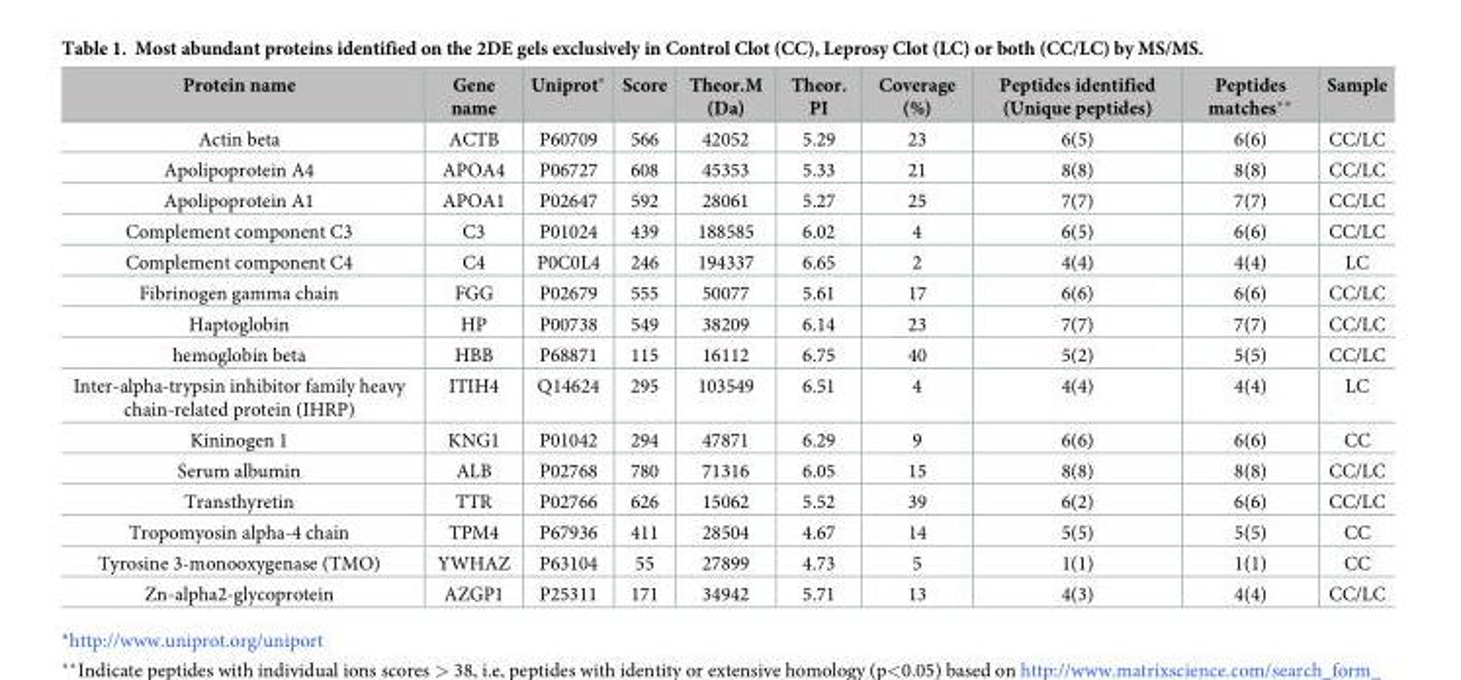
<table><thead><tr><td>Protein name</td><td>Gene name</td><td>Uniprot*</td><td>Score</td><td>Theor.M (Da)</td><td>Theor. PI</td><td>Coverage (%)</td><td>Peptides identified (Unique peptides)</td><td>Peptides matches**</td><td>Sample</td></tr></thead><tbody><tr><td>Actin beta</td><td>ACTB</td><td>P60709</td><td>566</td><td>42052</td><td>5.29</td><td>23</td><td>6(5)</td><td>6(6)</td><td>CC/LC</td></tr><tr><td>Apolipoprotein A4</td><td>APOA4</td><td>P06727</td><td>608</td><td>45353</td><td>5.33</td><td>21</td><td>8(8)</td><td>8(8)</td><td>CC/LC</td></tr><tr><td>Apolipoprotein A1</td><td>APOA1</td><td>P02647</td><td>592</td><td>28061</td><td>5.27</td><td>25</td><td>7(7)</td><td>7(7)</td><td>CC/LC</td></tr><tr><td>Complement component C3</td><td>C3</td><td>P01024</td><td>439</td><td>188585</td><td>6.02</td><td>4</td><td>6(5)</td><td>6(6)</td><td>CC/LC</td></tr><tr><td>Complement component C4</td><td>C4</td><td>P0C0L4</td><td>246</td><td>194337</td><td>6.65</td><td>2</td><td>4(4)</td><td>4(4)</td><td>LC</td></tr><tr><td>Fibrinogen gamma chain</td><td>FGG</td><td>P02679</td><td>555</td><td>50077</td><td>5.61</td><td>17</td><td>6(6)</td><td>6(6)</td><td>CC/LC</td></tr><tr><td>Haptoglobin</td><td>HP</td><td>P00738</td><td>549</td><td>38209</td><td>6.14</td><td>23</td><td>7(7)</td><td>7(7)</td><td>CC/LC</td></tr><tr><td>hemoglobin beta</td><td>HBB</td><td>P68871</td><td>115</td><td>16112</td><td>6.75</td><td>40</td><td>5(2)</td><td>5(5)</td><td>CC/LC</td></tr><tr><td>Inter-alpha-trypsin inhibitor family heavy chain-related protein (IHRP)</td><td>ITIH4</td><td>Q14624</td><td>295</td><td>103549</td><td>6.51</td><td>4</td><td>4(4)</td><td>4(4)</td><td>LC</td></tr><tr><td>Kininogen 1</td><td>KNG1</td><td>P01042</td><td>294</td><td>47871</td><td>6.29</td><td>9</td><td>6(6)</td><td>6(6)</td><td>CC</td></tr><tr><td>Serum albumin</td><td>ALB</td><td>P02768</td><td>780</td><td>71316</td><td>6.05</td><td>15</td><td>8(8)</td><td>8(8)</td><td>CC/LC</td></tr><tr><td>Transthyretin</td><td>TTR</td><td>P02766</td><td>626</td><td>15062</td><td>5.52</td><td>39</td><td>6(2)</td><td>6(6)</td><td>CC/LC</td></tr><tr><td>Tropomyosin alpha-4 chain</td><td>TPM4</td><td>P67936</td><td>411</td><td>28504</td><td>4.67</td><td>14</td><td>5(5)</td><td>5(5)</td><td>CC</td></tr><tr><td>Tyrosine 3-monooxygenase (TMO)</td><td>YWHAZ</td><td>P63104</td><td>55</td><td>27899</td><td>4.73</td><td>5</td><td>1(1)</td><td>1(1)</td><td>CC</td></tr><tr><td>Zn-alpha2-glycoprotein</td><td>AZGP1</td><td>P25311</td><td>171</td><td>34942</td><td>5.71</td><td>13</td><td>4(3)</td><td>4(4)</td><td>CC/LC</td></tr></tbody></table>